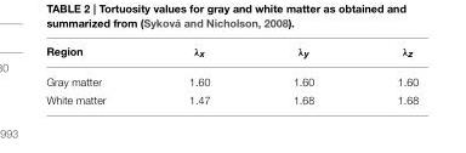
<table><thead><tr><td>Region</td><td>λ<sub>x</sub></td><td>λ<sub>y</sub></td><td>λ<sub>z</sub></td></tr></thead><tbody><tr><td>Gray matter</td><td>1.60</td><td>1.60</td><td>1.60</td></tr><tr><td>White matter</td><td>1.47</td><td>1.68</td><td>1.68</td></tr></tbody></table>